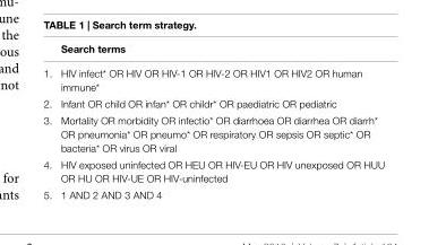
<table><thead><tr><td></td><td>Search terms</td></tr></thead><tbody><tr><td>1.</td><td>HIV infect* OR HIV OR HIV-1 OR HIV-2 OR HIV1 OR HIV2 OR human immune*</td></tr><tr><td>2.</td><td>Infant OR child OR infan* OR childr* OR paediatric OR pediatric</td></tr><tr><td>3.</td><td>Mortality OR morbidity OR infectio* OR diarrhoea OR diarrhea OR diarrh* OR pneumonia* OR pneumo* OR respiratory OR sepsis OR septic* OR bacteria* OR virus OR viral</td></tr><tr><td>4.</td><td>HIV exposed uninfected OR HEU OR HIV-EU OR HIV unexposed OR HUU OR HU OR HIV-UE OR HIV-uninfected</td></tr><tr><td>5.</td><td>1 AND 2 AND 3 AND 4</td></tr></tbody></table>